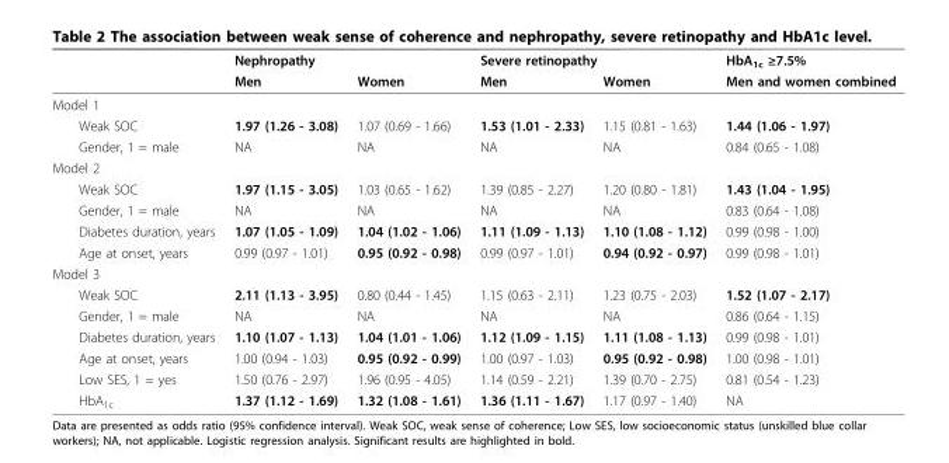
<table><thead><tr><td rowspan="2"></td><td colspan="2">Nephropathy</td><td colspan="2">Severe retinopathy</td><td rowspan="2">HbA<sub>1c</sub> ≥7.5% Men and women combined</td></tr><tr><td>Men</td><td>Women</td><td>Men</td><td>Women</td></tr></thead><tbody><tr><td colspan="6">Model 1</td></tr><tr><td>Weak SOC</td><td>1.97 (1.26 - 3.08)</td><td>1.07 (0.69 - 1.66)</td><td>1.53 (1.01 - 2.33)</td><td>1.15 (0.81 - 1.63)</td><td>1.44 (1.06 - 1.97)</td></tr><tr><td>Gender, 1 = male</td><td>NA</td><td>NA</td><td>NA</td><td>NA</td><td>0.84 (0.65 - 1.08)</td></tr><tr><td colspan="6">Model 2</td></tr><tr><td>Weak SOC</td><td>1.97 (1.15 - 3.05)</td><td>1.03 (0.65 - 1.62)</td><td>1.39 (0.85 - 2.27)</td><td>1.20 (0.80 - 1.81)</td><td>1.43 (1.04 - 1.95)</td></tr><tr><td>Gender, 1 = male</td><td>NA</td><td>NA</td><td>NA</td><td>NA</td><td>0.83 (0.64 - 1.08)</td></tr><tr><td>Diabetes duration, years</td><td>1.07 (1.05 - 1.09)</td><td>1.04 (1.02 - 1.06)</td><td>1.11 (1.09 - 1.13)</td><td>1.10 (1.08 - 1.12)</td><td>0.99 (0.98 - 1.00)</td></tr><tr><td>Age at onset, years</td><td>0.99 (0.97 - 1.01)</td><td>0.95 (0.92 - 0.98)</td><td>0.99 (0.97 - 1.01)</td><td>0.94 (0.92 - 0.97)</td><td>0.99 (0.98 - 1.01)</td></tr><tr><td colspan="6">Model 3</td></tr><tr><td>Weak SOC</td><td>2.11 (1.13 - 3.95)</td><td>0.80 (0.44 - 1.45)</td><td>1.15 (0.63 - 2.11)</td><td>1.23 (0.75 - 2.03)</td><td>1.52 (1.07 - 2.17)</td></tr><tr><td>Gender, 1 = male</td><td>NA</td><td>NA</td><td>NA</td><td>NA</td><td>0.86 (0.64 - 1.15)</td></tr><tr><td>Diabetes duration, years</td><td>1.10 (1.07 - 1.13)</td><td>1.04 (1.01 - 1.06)</td><td>1.12 (1.09 - 1.15)</td><td>1.11 (1.08 - 1.13)</td><td>0.99 (0.98 - 1.01)</td></tr><tr><td>Age at onset, years</td><td>1.00 (0.94 - 1.03)</td><td>0.95 (0.92 - 0.99)</td><td>1.00 (0.97 - 1.03)</td><td>0.95 (0.92 - 0.98)</td><td>1.00 (0.98 - 1.01)</td></tr><tr><td>Low SES, 1 = yes</td><td>1.50 (0.76 - 2.97)</td><td>1.96 (0.95 - 4.05)</td><td>1.14 (0.59 - 2.21)</td><td>1.39 (0.70 - 2.75)</td><td>0.81 (0.54 - 1.23)</td></tr><tr><td>HbA<sub>1c</sub></td><td>1.37 (1.12 - 1.69)</td><td>1.32 (1.08 - 1.61)</td><td>1.36 (1.11 - 1.67)</td><td>1.17 (0.97 - 1.40)</td><td>NA</td></tr></tbody></table>